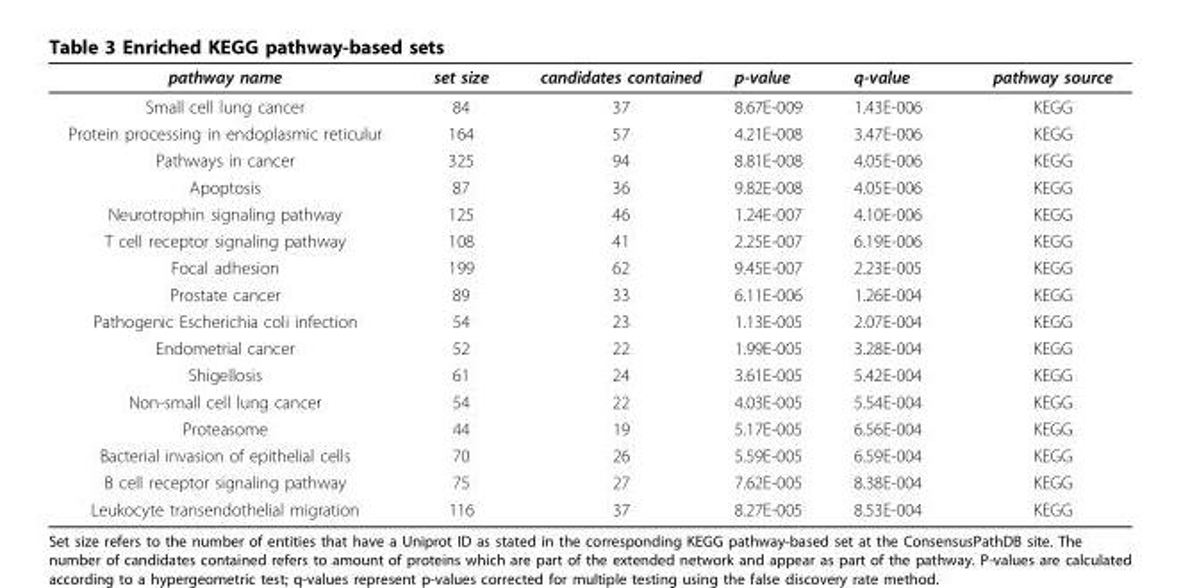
<table><thead><tr><td>pathway name</td><td>set size</td><td>candidates contained</td><td>p-value</td><td>q-value</td><td>pathway source</td></tr></thead><tbody><tr><td>Small cell lung cancer</td><td>84</td><td>37</td><td>8.67E-009</td><td>1.43E-006</td><td>KEGG</td></tr><tr><td>Protein processing in endoplasmic reticulur</td><td>164</td><td>57</td><td>4.21E-008</td><td>3.47E-006</td><td>KEGG</td></tr><tr><td>Pathways in cancer</td><td>325</td><td>94</td><td>8.81E-008</td><td>4.05E-006</td><td>KEGG</td></tr><tr><td>Apoptosis</td><td>87</td><td>36</td><td>9.82E-008</td><td>4.05E-006</td><td>KEGG</td></tr><tr><td>Neurotrophin signaling pathway</td><td>125</td><td>46</td><td>1.24E-007</td><td>4.10E-006</td><td>KEGG</td></tr><tr><td>T cell receptor signaling pathway</td><td>108</td><td>41</td><td>2.25E-007</td><td>6.19E-006</td><td>KEGG</td></tr><tr><td>Focal adhesion</td><td>199</td><td>62</td><td>9.45E-007</td><td>2.23E-005</td><td>KEGG</td></tr><tr><td>Prostate cancer</td><td>89</td><td>33</td><td>6.11E-006</td><td>1.26E-004</td><td>KEGG</td></tr><tr><td>Pathogenic Escherichia coli infection</td><td>54</td><td>23</td><td>1.13E-005</td><td>2.07E-004</td><td>KEGG</td></tr><tr><td>Endometrial cancer</td><td>52</td><td>22</td><td>1.99E-005</td><td>3.28E-004</td><td>KEGG</td></tr><tr><td>Shigellosis</td><td>61</td><td>24</td><td>3.61E-005</td><td>5.42E-004</td><td>KEGG</td></tr><tr><td>Non-small cell lung cancer</td><td>54</td><td>22</td><td>4.03E-005</td><td>5.54E-004</td><td>KEGG</td></tr><tr><td>Proteasome</td><td>44</td><td>19</td><td>5.17E-005</td><td>6.56E-004</td><td>KEGG</td></tr><tr><td>Bacterial invasion of epithelial cells</td><td>70</td><td>26</td><td>5.59E-005</td><td>6.59E-004</td><td>KEGG</td></tr><tr><td>B cell receptor signaling pathway</td><td>75</td><td>27</td><td>7.62E-005</td><td>8.38E-004</td><td>KEGG</td></tr><tr><td>Leukocyte transendothelial migration</td><td>116</td><td>37</td><td>8.27E-005</td><td>8.53E-004</td><td>KEGG</td></tr></tbody></table>